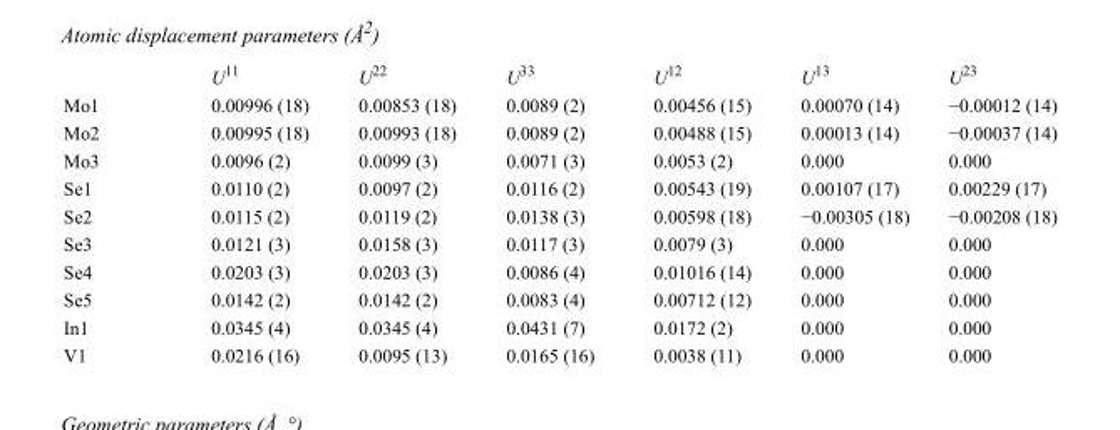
<table><thead><tr><td></td><td>U<sup>11</sup></td><td>U<sup>22</sup></td><td>U<sup>33</sup></td><td>U<sup>12</sup></td><td>U<sup>13</sup></td><td>U<sup>23</sup></td></tr></thead><tbody><tr><td>Mo1</td><td>0.00996 (18)</td><td>0.00853 (18)</td><td>0.0089 (2)</td><td>0.00456 (15)</td><td>0.00070 (14)</td><td>−0.00012 (14)</td></tr><tr><td>Mo2</td><td>0.00995 (18)</td><td>0.00993 (18)</td><td>0.0089 (2)</td><td>0.00488 (15)</td><td>0.00013 (14)</td><td>−0.00037 (14)</td></tr><tr><td>Mo3</td><td>0.0096 (2)</td><td>0.0099 (3)</td><td>0.0071 (3)</td><td>0.0053 (2)</td><td>0.000</td><td>0.000</td></tr><tr><td>Se1</td><td>0.0110 (2)</td><td>0.0097 (2)</td><td>0.0116 (2)</td><td>0.00543 (19)</td><td>0.00107 (17)</td><td>0.00229 (17)</td></tr><tr><td>Se2</td><td>0.0115 (2)</td><td>0.0119 (2)</td><td>0.0138 (3)</td><td>0.00598 (18)</td><td>−0.00305 (18)</td><td>−0.00208 (18)</td></tr><tr><td>Se3</td><td>0.0121 (3)</td><td>0.0158 (3)</td><td>0.0117 (3)</td><td>0.0079 (3)</td><td>0.000</td><td>0.000</td></tr><tr><td>Se4</td><td>0.0203 (3)</td><td>0.0203 (3)</td><td>0.0086 (4)</td><td>0.01016 (14)</td><td>0.000</td><td>0.000</td></tr><tr><td>Se5</td><td>0.0142 (2)</td><td>0.0142 (2)</td><td>0.0083 (4)</td><td>0.00712 (12)</td><td>0.000</td><td>0.000</td></tr><tr><td>In1</td><td>0.0345 (4)</td><td>0.0345 (4)</td><td>0.0431 (7)</td><td>0.0172 (2)</td><td>0.000</td><td>0.000</td></tr><tr><td>V1</td><td>0.0216 (16)</td><td>0.0095 (13)</td><td>0.0165 (16)</td><td>0.0038 (11)</td><td>0.000</td><td>0.000</td></tr></tbody></table>